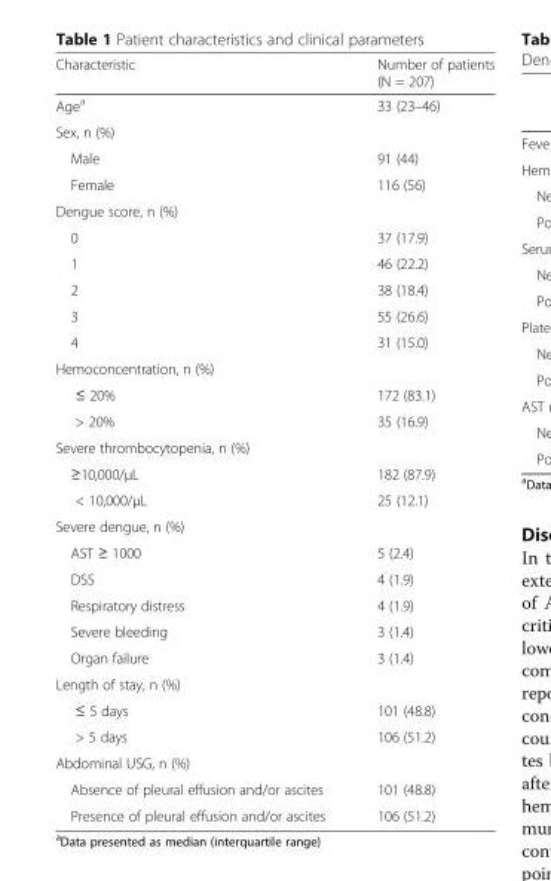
<table><thead><tr><td>Characteristic</td><td>Number of patients (N = 207)</td></tr></thead><tbody><tr><td>Age<sup>a</sup></td><td>33 (23–46)</td></tr><tr><td colspan="2">Sex, n (%)</td></tr><tr><td>Male</td><td>91 (44)</td></tr><tr><td>Female</td><td>116 (56)</td></tr><tr><td colspan="2">Dengue score, n (%)</td></tr><tr><td>0</td><td>37 (17.9)</td></tr><tr><td>1</td><td>46 (22.2)</td></tr><tr><td>2</td><td>38 (18.4)</td></tr><tr><td>3</td><td>55 (26.6)</td></tr><tr><td>4</td><td>31 (15.0)</td></tr><tr><td colspan="2">Hemoconcentration, n (%)</td></tr><tr><td>≤ 20%</td><td>172 (83.1)</td></tr><tr><td>&gt; 20%</td><td>35 (16.9)</td></tr><tr><td colspan="2">Severe thrombocytopenia, n (%)</td></tr><tr><td>≥10,000/μL</td><td>182 (87.9)</td></tr><tr><td>&lt; 10,000/μL</td><td>25 (12.1)</td></tr><tr><td colspan="2">Severe dengue, n (%)</td></tr><tr><td>AST ≥ 1000</td><td>5 (2.4)</td></tr><tr><td>DSS</td><td>4 (1.9)</td></tr><tr><td>Respiratory distress</td><td>4 (1.9)</td></tr><tr><td>Severe bleeding</td><td>3 (1.4)</td></tr><tr><td>Organ failure</td><td>3 (1.4)</td></tr><tr><td colspan="2">Length of stay, n (%)</td></tr><tr><td>≤ 5 days</td><td>101 (48.8)</td></tr><tr><td>&gt; 5 days</td><td>106 (51.2)</td></tr><tr><td colspan="2">Abdominal USG, n (%)</td></tr><tr><td>Absence of pleural effusion and/or ascites</td><td>101 (48.8)</td></tr><tr><td>Presence of pleural effusion and/or ascites</td><td>106 (51.2)</td></tr></tbody></table>